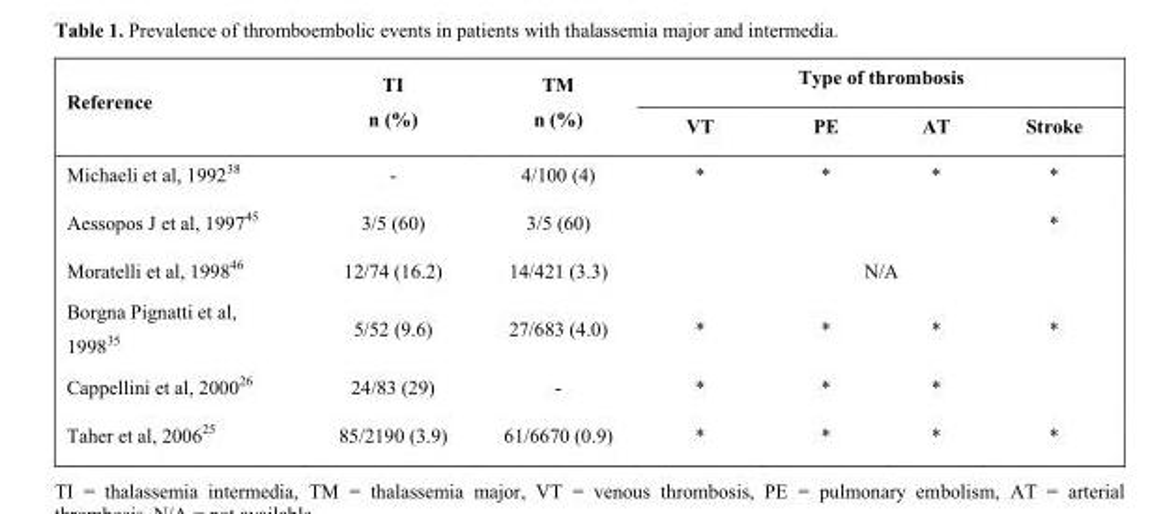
<table><thead><tr><td rowspan="2">Reference</td><td rowspan="2">TI n (%)</td><td rowspan="2">TM n (%)</td><td colspan="4">Type of thrombosis</td></tr><tr><td>VT</td><td>PE</td><td>AT</td><td>Stroke</td></tr></thead><tbody><tr><td>Michaeli et al, 1992<sup>38</sup></td><td>-</td><td>4/100 (4)</td><td>*</td><td>*</td><td>*</td><td>*</td></tr><tr><td>Aessopos J et al, 1997<sup>45</sup></td><td>3/5 (60)</td><td>3/5 (60)</td><td></td><td></td><td></td><td>*</td></tr><tr><td>Moratelli et al, 1998<sup>46</sup></td><td>12/74 (16.2)</td><td>14/421 (3.3)</td><td></td><td colspan="2">N/A</td><td></td></tr><tr><td>Borgna Pignatti et al, 1998<sup>35</sup></td><td>5/52 (9.6)</td><td>27/683 (4.0)</td><td>*</td><td>*</td><td>*</td><td>*</td></tr><tr><td>Cappellini et al, 2000<sup>26</sup></td><td>24/83 (29)</td><td>-</td><td>*</td><td>*</td><td>*</td><td></td></tr><tr><td>Taher et al, 2006<sup>25</sup></td><td>85/2190 (3.9)</td><td>61/6670 (0.9)</td><td>*</td><td>*</td><td>*</td><td>*</td></tr></tbody></table>